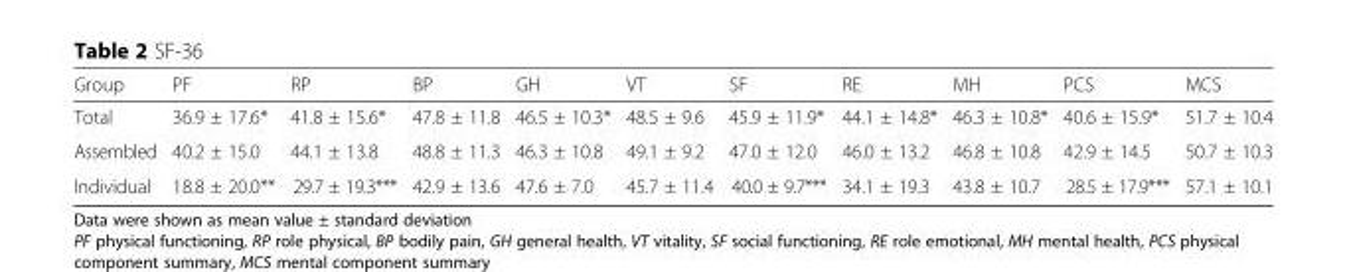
<table><thead><tr><td>Group</td><td>PF</td><td>RP</td><td>BP</td><td>GH</td><td>VT</td><td>SF</td><td>RE</td><td>MH</td><td>PCS</td><td>MCS</td></tr></thead><tbody><tr><td>Total</td><td>36.9 ± 17.6*</td><td>41.8 ± 15.6*</td><td>47.8 ± 11.8</td><td>46.5 ± 10.3*</td><td>48.5 ± 9.6</td><td>45.9 ± 11.9*</td><td>44.1 ± 14.8*</td><td>46.3 ± 10.8*</td><td>40.6 ± 15.9*</td><td>51.7 ± 10.4</td></tr><tr><td>Assembled</td><td>40.2 ± 15.0</td><td>44.1 ± 13.8</td><td>48.8 ± 11.3</td><td>46.3 ± 10.8</td><td>49.1 ± 9.2</td><td>47.0 ± 12.0</td><td>46.0 ± 13.2</td><td>46.8 ± 10.8</td><td>42.9 ± 14.5</td><td>50.7 ± 10.3</td></tr><tr><td>Individual</td><td>18.8 ± 20.0**</td><td>29.7 ± 19.3***</td><td>42.9 ± 13.6</td><td>47.6 ± 7.0</td><td>45.7 ± 11.4</td><td>40.0 ± 9.7***</td><td>34.1 ± 19.3</td><td>43.8 ± 10.7</td><td>28.5 ± 17.9***</td><td>57.1 ± 10.1</td></tr></tbody></table>